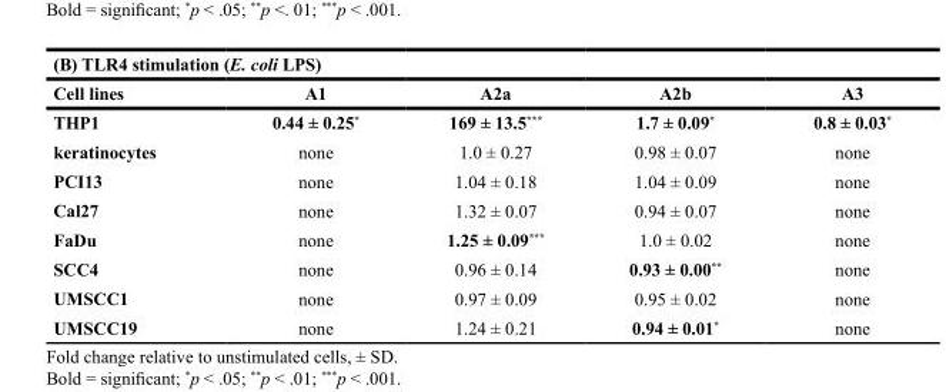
<table><thead><tr><td colspan="5">(B) TLR4 stimulation (E. coli LPS)</td></tr><tr><td>Cell lines</td><td>A1</td><td>A2a</td><td>A2b</td><td>A3</td></tr></thead><tbody><tr><td>THP1</td><td>0.44 ± 0.25*</td><td>169 ± 13.5***</td><td>1.7 ± 0.09*</td><td>0.8 ± 0.03*</td></tr><tr><td>keratinocytes</td><td>none</td><td>1.0 ± 0.27</td><td>0.98 ± 0.07</td><td>none</td></tr><tr><td>PCI13</td><td>none</td><td>1.04 ± 0.18</td><td>1.04 ± 0.09</td><td>none</td></tr><tr><td>Cal27</td><td>none</td><td>1.32 ± 0.07</td><td>0.94 ± 0.07</td><td>none</td></tr><tr><td>FaDu</td><td>none</td><td>1.25 ± 0.09***</td><td>1.0 ± 0.02</td><td>none</td></tr><tr><td>SCC4</td><td>none</td><td>0.96 ± 0.14</td><td>0.93 ± 0.00**</td><td>none</td></tr><tr><td>UMSCC1</td><td>none</td><td>0.97 ± 0.09</td><td>0.95 ± 0.02</td><td>none</td></tr><tr><td>UMSCC19</td><td>none</td><td>1.24 ± 0.21</td><td>0.94 ± 0.01*</td><td>none</td></tr></tbody></table>